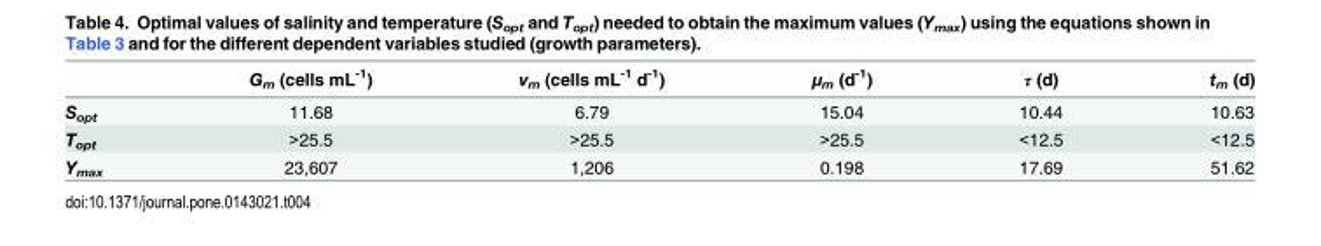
<table><thead><tr><td></td><td>G<sub>m</sub> (cells mL<sup>-1</sup>)</td><td>v<sub>m</sub> (cells mL<sup>-1</sup> d<sup>-1</sup>)</td><td>μ<sub>m</sub> (d<sup>-1</sup>)</td><td>τ (d)</td><td>t<sub>m</sub> (d)</td></tr></thead><tbody><tr><td>S<sub>opt</sub></td><td>11.68</td><td>6.79</td><td>15.04</td><td>10.44</td><td>10.63</td></tr><tr><td>T<sub>opt</sub></td><td>&gt;25.5</td><td>&gt;25.5</td><td>&gt;25.5</td><td>&lt;12.5</td><td>&lt;12.5</td></tr><tr><td>Y<sub>max</sub></td><td>23,607</td><td>1,206</td><td>0.198</td><td>17.69</td><td>51.62</td></tr></tbody></table>